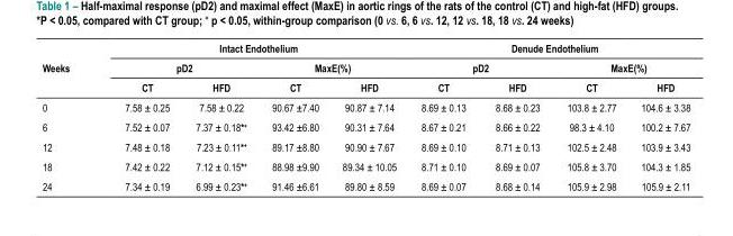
<table><thead><tr><td rowspan="3">Weeks</td><td colspan="4">Intact Endothelium</td><td colspan="4">Denude Endothelium</td></tr><tr><td colspan="2">pD2</td><td colspan="2">MaxE(%)</td><td colspan="2">pD2</td><td colspan="2">MaxE(%)</td></tr><tr><td>CT</td><td>HFD</td><td>CT</td><td>HFD</td><td>CT</td><td>HFD</td><td>CT</td><td>HFD</td></tr></thead><tbody><tr><td>0</td><td>7.58 ± 0.25</td><td>7.58 ± 0.22</td><td>90.67 ±7.40</td><td>90.87 ± 7.14</td><td>8.69 ± 0.13</td><td>8.68 ± 0.23</td><td>103.8 ± 2.77</td><td>104.6 ± 3.38</td></tr><tr><td>6</td><td>7.52 ± 0.07</td><td>7.37 ± 0.18*<sup>+</sup></td><td>93.42 ±6.80</td><td>90.31 ± 7.64</td><td>8.67 ± 0.21</td><td>8.66 ± 0.22</td><td>98.3 ± 4.10</td><td>100.2 ± 7.67</td></tr><tr><td>12</td><td>7.48 ± 0.18</td><td>7.23 ± 0.11*<sup>+</sup></td><td>89.17 ±8.80</td><td>90.90 ± 7.67</td><td>8.69 ± 0.10</td><td>8.71 ± 0.13</td><td>102.5 ± 2.48</td><td>103.9 ± 3.43</td></tr><tr><td>18</td><td>7.42 ± 0.22</td><td>7.12 ± 0.15*<sup>+</sup></td><td>88.98 ±9.90</td><td>89.34 ± 10.05</td><td>8.71 ± 0.10</td><td>8.69 ± 0.07</td><td>105.8 ± 3.70</td><td>104.3 ± 1.85</td></tr><tr><td>24</td><td>7.34 ± 0.19</td><td>6.99 ± 0.23*<sup>+</sup></td><td>91.46 ±6.61</td><td>89.80 ± 8.59</td><td>8.69 ± 0.07</td><td>8.68 ± 0.14</td><td>105.9 ± 2.98</td><td>105.9 ± 2.11</td></tr></tbody></table>